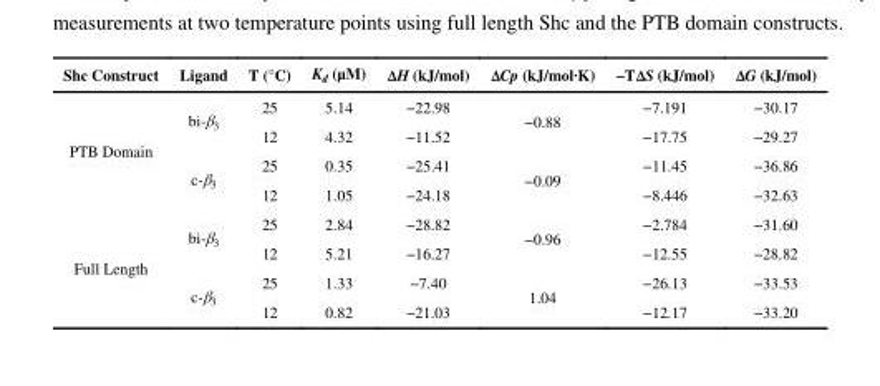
<table><thead><tr><td>Shc Construct</td><td>Ligand</td><td>T (°C)</td><td>K<sub>d</sub> (μM)</td><td>ΔH (kJ/mol)</td><td>ΔCp (kJ/mol·K)</td><td>−TΔS (kJ/mol)</td><td>ΔG (kJ/mol)</td></tr></thead><tbody><tr><td rowspan="4">PTB Domain</td><td rowspan="2">bi-β<sub>3</sub></td><td>25</td><td>5.14</td><td>−22.98</td><td rowspan="2">−0.88</td><td>−7.191</td><td>−30.17</td></tr><tr><td>12</td><td>4.32</td><td>−11.52</td><td>−17.75</td><td>−29.27</td></tr><tr><td rowspan="2">c-β<sub>3</sub></td><td>25</td><td>0.35</td><td>−25.41</td><td rowspan="2">−0.09</td><td>−11.45</td><td>−36.86</td></tr><tr><td>12</td><td>1.05</td><td>−24.18</td><td>−8.446</td><td>−32.63</td></tr><tr><td rowspan="4">Full Length</td><td rowspan="2">bi-β<sub>3</sub></td><td>25</td><td>2.84</td><td>−28.82</td><td rowspan="2">−0.96</td><td>−2.784</td><td>−31.60</td></tr><tr><td>12</td><td>5.21</td><td>−16.27</td><td>−12.55</td><td>−28.82</td></tr><tr><td rowspan="2">c-β<sub>3</sub></td><td>25</td><td>1.33</td><td>−7.40</td><td rowspan="2">1.04</td><td>−26.13</td><td>−33.53</td></tr><tr><td>12</td><td>0.82</td><td>−21.03</td><td>−12.17</td><td>−33.20</td></tr></tbody></table>